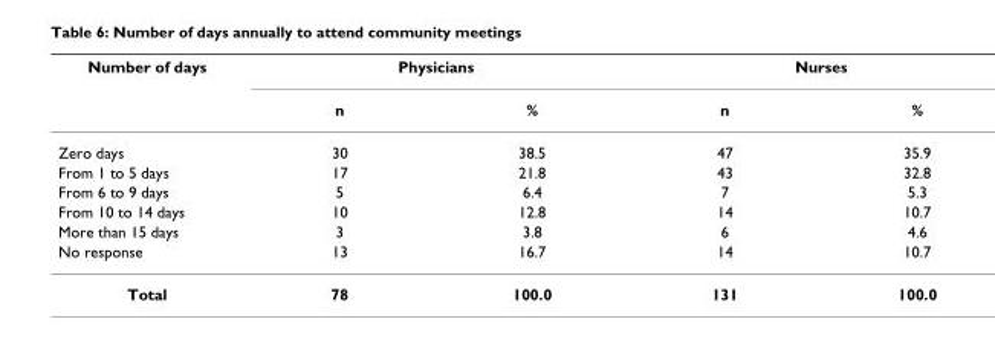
<table><thead><tr><td rowspan="2">Number of days</td><td colspan="2">Physicians</td><td colspan="2">Nurses</td></tr><tr><td>n</td><td>%</td><td>n</td><td>%</td></tr></thead><tbody><tr><td>Zero days</td><td>30</td><td>38.5</td><td>47</td><td>35.9</td></tr><tr><td>From 1 to 5 days</td><td>17</td><td>21.8</td><td>43</td><td>32.8</td></tr><tr><td>From 6 to 9 days</td><td>5</td><td>6.4</td><td>7</td><td>5.3</td></tr><tr><td>From 10 to 14 days</td><td>10</td><td>12.8</td><td>14</td><td>10.7</td></tr><tr><td>More than 15 days</td><td>3</td><td>3.8</td><td>6</td><td>4.6</td></tr><tr><td>No response</td><td>13</td><td>16.7</td><td>14</td><td>10.7</td></tr><tr><td>Total</td><td>78</td><td>100.0</td><td>131</td><td>100.0</td></tr></tbody></table>